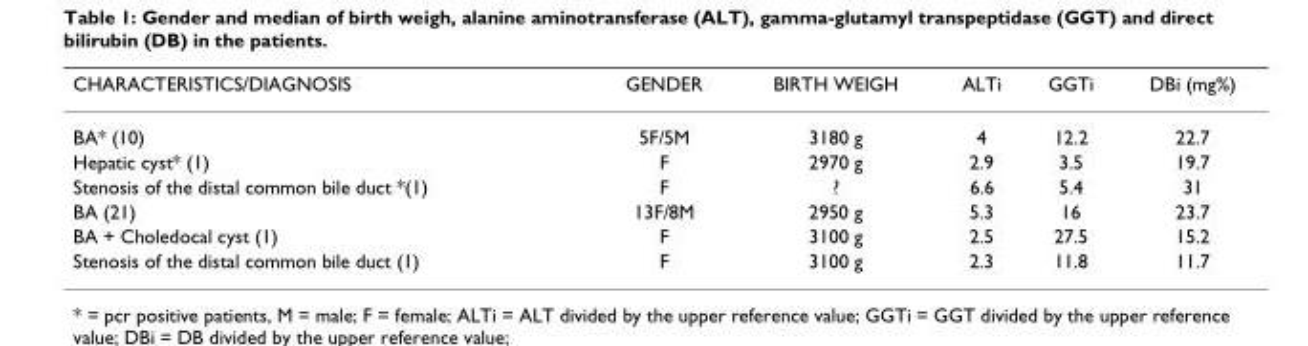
<table><thead><tr><td>CHARACTERISTICS/DIAGNOSIS</td><td>GENDER</td><td>BIRTH WEIGH</td><td>ALTi</td><td>GGTi</td><td>DBi (mg%)</td></tr></thead><tbody><tr><td>BA* (10)</td><td>5F/5M</td><td>3180 g</td><td>4</td><td>12.2</td><td>22.7</td></tr><tr><td>Hepatic cyst* (1)</td><td>F</td><td>2970 g</td><td>2.9</td><td>3.5</td><td>19.7</td></tr><tr><td>Stenosis of the distal common bile duct *(1)</td><td>F</td><td>?</td><td>6.6</td><td>5.4</td><td>31</td></tr><tr><td>BA (21)</td><td>13F/8M</td><td>2950 g</td><td>5.3</td><td>16</td><td>23.7</td></tr><tr><td>BA + Choledocal cyst (1)</td><td>F</td><td>3100 g</td><td>2.5</td><td>27.5</td><td>15.2</td></tr><tr><td>Stenosis of the distal common bile duct (1)</td><td>F</td><td>3100 g</td><td>2.3</td><td>11.8</td><td>11.7</td></tr></tbody></table>